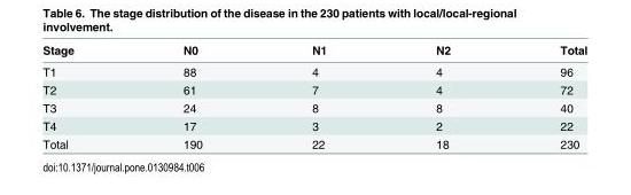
<table><thead><tr><td>Stage</td><td>N0</td><td>N1</td><td>N2</td><td>Total</td></tr></thead><tbody><tr><td>T1</td><td>88</td><td>4</td><td>4</td><td>96</td></tr><tr><td>T2</td><td>61</td><td>7</td><td>4</td><td>72</td></tr><tr><td>T3</td><td>24</td><td>8</td><td>8</td><td>40</td></tr><tr><td>T4</td><td>17</td><td>3</td><td>2</td><td>22</td></tr><tr><td>Total</td><td>190</td><td>22</td><td>18</td><td>230</td></tr></tbody></table>